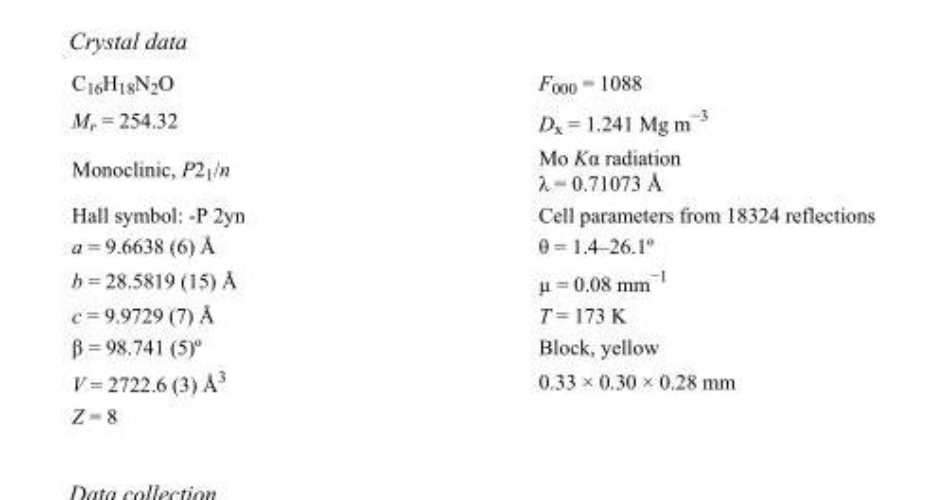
<table><tbody><tr><td>C<sub>16</sub>H<sub>18</sub>N<sub>2</sub>O</td><td>F000 = 1088</td></tr><tr><td>M<sub>r</sub> = 254.32</td><td>D<sub>x</sub> = 1.241 Mg m<sup>−3</sup></td></tr><tr><td>Monoclinic, P2<sub>1</sub>/n</td><td>Mo Kα radiation λ = 0.71073 Å</td></tr><tr><td>Hall symbol: -P 2yn</td><td>Cell parameters from 18324 reflections</td></tr><tr><td>a = 9.6638 (6) Å</td><td>θ = 1.4–26.1º</td></tr><tr><td>b = 28.5819 (15) Å</td><td>µ = 0.08 mm<sup>−1</sup></td></tr><tr><td>c = 9.9729 (7) Å</td><td>T = 173 K</td></tr><tr><td>β = 98.741 (5)º</td><td>Block, yellow</td></tr><tr><td>V = 2722.6 (3) Å<sup>3</sup></td><td>0.33 × 0.30 × 0.28 mm</td></tr><tr><td>Z = 8</td><td></td></tr></tbody></table>